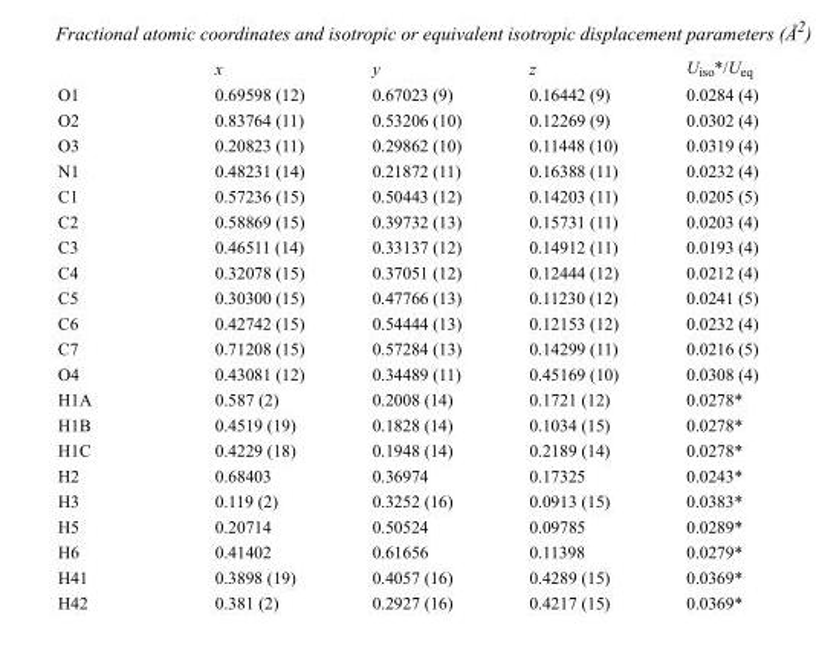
<table><thead><tr><td></td><td>x</td><td>y</td><td>z</td><td>U<sub>iso</sub>*/U<sub>eq</sub></td></tr></thead><tbody><tr><td>O1</td><td>0.69598 (12)</td><td>0.67023 (9)</td><td>0.16442 (9)</td><td>0.0284 (4)</td></tr><tr><td>O2</td><td>0.83764 (11)</td><td>0.53206 (10)</td><td>0.12269 (9)</td><td>0.0302 (4)</td></tr><tr><td>O3</td><td>0.20823 (11)</td><td>0.29862 (10)</td><td>0.11448 (10)</td><td>0.0319 (4)</td></tr><tr><td>N1</td><td>0.48231 (14)</td><td>0.21872 (11)</td><td>0.16388 (11)</td><td>0.0232 (4)</td></tr><tr><td>C1</td><td>0.57236 (15)</td><td>0.50443 (12)</td><td>0.14203 (11)</td><td>0.0205 (5)</td></tr><tr><td>C2</td><td>0.58869 (15)</td><td>0.39732 (13)</td><td>0.15731 (11)</td><td>0.0203 (4)</td></tr><tr><td>C3</td><td>0.46511 (14)</td><td>0.33137 (12)</td><td>0.14912 (11)</td><td>0.0193 (4)</td></tr><tr><td>C4</td><td>0.32078 (15)</td><td>0.37051 (12)</td><td>0.12444 (12)</td><td>0.0212 (4)</td></tr><tr><td>C5</td><td>0.30300 (15)</td><td>0.47766 (13)</td><td>0.11230 (12)</td><td>0.0241 (5)</td></tr><tr><td>C6</td><td>0.42742 (15)</td><td>0.54444 (13)</td><td>0.12153 (12)</td><td>0.0232 (4)</td></tr><tr><td>C7</td><td>0.71208 (15)</td><td>0.57284 (13)</td><td>0.14299 (11)</td><td>0.0216 (5)</td></tr><tr><td>O4</td><td>0.43081 (12)</td><td>0.34489 (11)</td><td>0.45169 (10)</td><td>0.0308 (4)</td></tr><tr><td>H1A</td><td>0.587 (2)</td><td>0.2008 (14)</td><td>0.1721 (12)</td><td>0.0278*</td></tr><tr><td>H1B</td><td>0.4519 (19)</td><td>0.1828 (14)</td><td>0.1034 (15)</td><td>0.0278*</td></tr><tr><td>H1C</td><td>0.4229 (18)</td><td>0.1948 (14)</td><td>0.2189 (14)</td><td>0.0278*</td></tr><tr><td>H2</td><td>0.68403</td><td>0.36974</td><td>0.17325</td><td>0.0243*</td></tr><tr><td>H3</td><td>0.119 (2)</td><td>0.3252 (16)</td><td>0.0913 (15)</td><td>0.0383*</td></tr><tr><td>H5</td><td>0.20714</td><td>0.50524</td><td>0.09785</td><td>0.0289*</td></tr><tr><td>H6</td><td>0.41402</td><td>0.61656</td><td>0.11398</td><td>0.0279*</td></tr><tr><td>H41</td><td>0.3898 (19)</td><td>0.4057 (16)</td><td>0.4289 (15)</td><td>0.0369*</td></tr><tr><td>H42</td><td>0.381 (2)</td><td>0.2927 (16)</td><td>0.4217 (15)</td><td>0.0369*</td></tr></tbody></table>